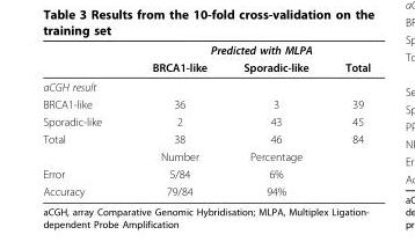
<table><thead><tr><td rowspan="2"></td><td colspan="3">Predicted with MLPA</td></tr><tr><td>BRCA1-like</td><td>Sporadic-like</td><td>Total</td></tr></thead><tbody><tr><td colspan="4">aCGH result</td></tr><tr><td>BRCA1-like</td><td>36</td><td>3</td><td>39</td></tr><tr><td>Sporadic-like</td><td>2</td><td>43</td><td>45</td></tr><tr><td rowspan="2">Total</td><td>38</td><td>46</td><td>84</td></tr><tr><td>Number</td><td>Percentage</td><td></td></tr><tr><td>Error</td><td>5/84</td><td>6%</td><td></td></tr><tr><td>Accuracy</td><td>79/84</td><td>94%</td><td></td></tr></tbody></table>